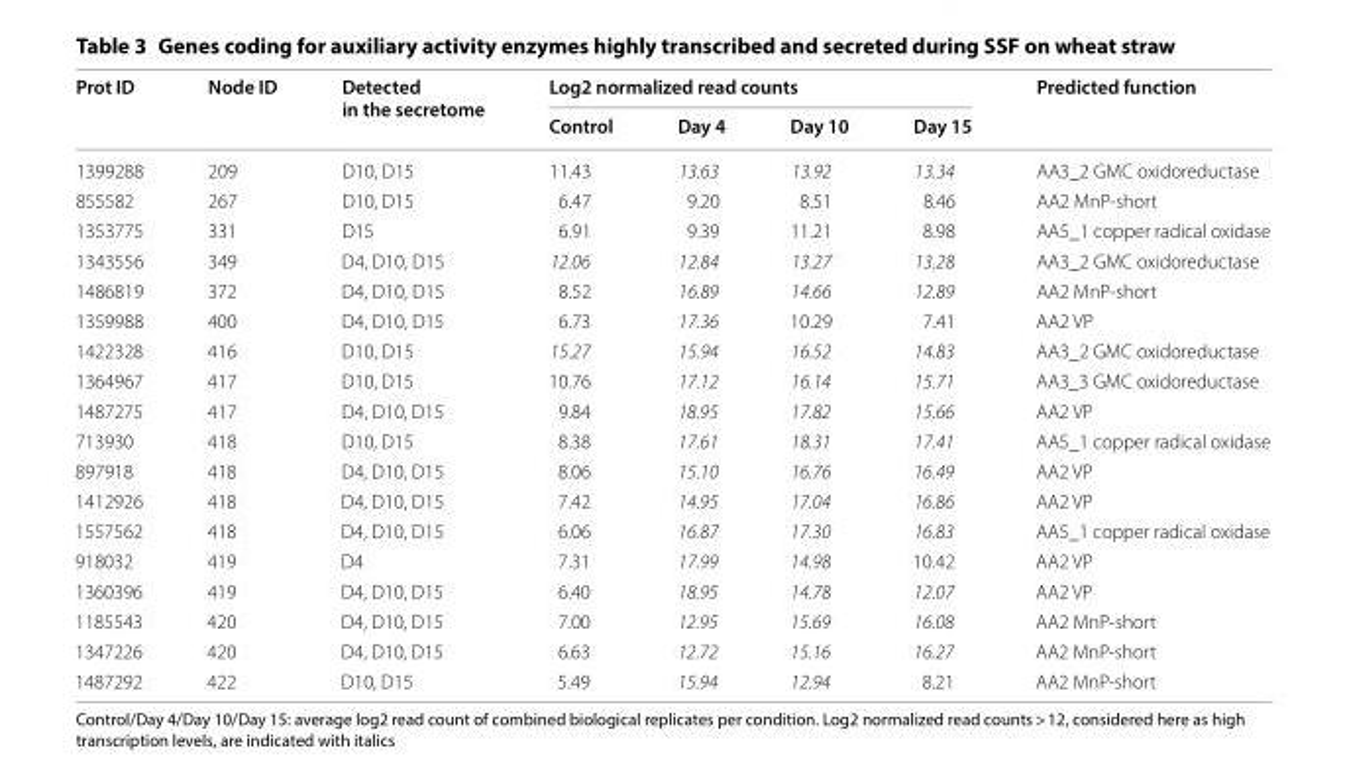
<table><thead><tr><td rowspan="2">Prot ID</td><td rowspan="2">Node ID</td><td rowspan="2">Detected in the secretome</td><td colspan="4">Log2 normalized read counts</td><td rowspan="2">Predicted function</td></tr><tr><td>Control</td><td>Day 4</td><td>Day 10</td><td>Day 15</td></tr></thead><tbody><tr><td>1399288</td><td>209</td><td>D10, D15</td><td>11.43</td><td>13.63</td><td>13.92</td><td>13.34</td><td>AA3_2 GMC oxidoreductase</td></tr><tr><td>855582</td><td>267</td><td>D10, D15</td><td>6.47</td><td>9.20</td><td>8.51</td><td>8.46</td><td>AA2 MnP‑short</td></tr><tr><td>1353775</td><td>331</td><td>D15</td><td>6.91</td><td>9.39</td><td>11.21</td><td>8.98</td><td>AA5_1 copper radical oxidase</td></tr><tr><td>1343556</td><td>349</td><td>D4, D10, D15</td><td>12.06</td><td>12.84</td><td>13.27</td><td>13.28</td><td>AA3_2 GMC oxidoreductase</td></tr><tr><td>1486819</td><td>372</td><td>D4, D10, D15</td><td>8.52</td><td>16.89</td><td>14.66</td><td>12.89</td><td>AA2 MnP‑short</td></tr><tr><td>1359988</td><td>400</td><td>D4, D10, D15</td><td>6.73</td><td>17.36</td><td>10.29</td><td>7.41</td><td>AA2 VP</td></tr><tr><td>1422328</td><td>416</td><td>D10, D15</td><td>15.27</td><td>15.94</td><td>16.52</td><td>14.83</td><td>AA3_2 GMC oxidoreductase</td></tr><tr><td>1364967</td><td>417</td><td>D10, D15</td><td>10.76</td><td>17.12</td><td>16.14</td><td>15.71</td><td>AA3_3 GMC oxidoreductase</td></tr><tr><td>1487275</td><td>417</td><td>D4, D10, D15</td><td>9.84</td><td>18.95</td><td>17.82</td><td>15.66</td><td>AA2 VP</td></tr><tr><td>713930</td><td>418</td><td>D10, D15</td><td>8.38</td><td>17.61</td><td>18.31</td><td>17.41</td><td>AA5_1 copper radical oxidase</td></tr><tr><td>897918</td><td>418</td><td>D4, D10, D15</td><td>8.06</td><td>15.10</td><td>16.76</td><td>16.49</td><td>AA2 VP</td></tr><tr><td>1412926</td><td>418</td><td>D4, D10, D15</td><td>7.42</td><td>14.95</td><td>17.04</td><td>16.86</td><td>AA2 VP</td></tr><tr><td>1557562</td><td>418</td><td>D4, D10, D15</td><td>6.06</td><td>16.87</td><td>17.30</td><td>16.83</td><td>AA5_1 copper radical oxidase</td></tr><tr><td>918032</td><td>419</td><td>D4</td><td>7.31</td><td>17.99</td><td>14.98</td><td>10.42</td><td>AA2 VP</td></tr><tr><td>1360396</td><td>419</td><td>D4, D10, D15</td><td>6.40</td><td>18.95</td><td>14.78</td><td>12.07</td><td>AA2 VP</td></tr><tr><td>1185543</td><td>420</td><td>D4, D10, D15</td><td>7.00</td><td>12.95</td><td>15.69</td><td>16.08</td><td>AA2 MnP‑short</td></tr><tr><td>1347226</td><td>420</td><td>D4, D10, D15</td><td>6.63</td><td>12.72</td><td>15.16</td><td>16.27</td><td>AA2 MnP‑short</td></tr><tr><td>1487292</td><td>422</td><td>D10, D15</td><td>5.49</td><td>15.94</td><td>12.94</td><td>8.21</td><td>AA2 MnP‑short</td></tr></tbody></table>